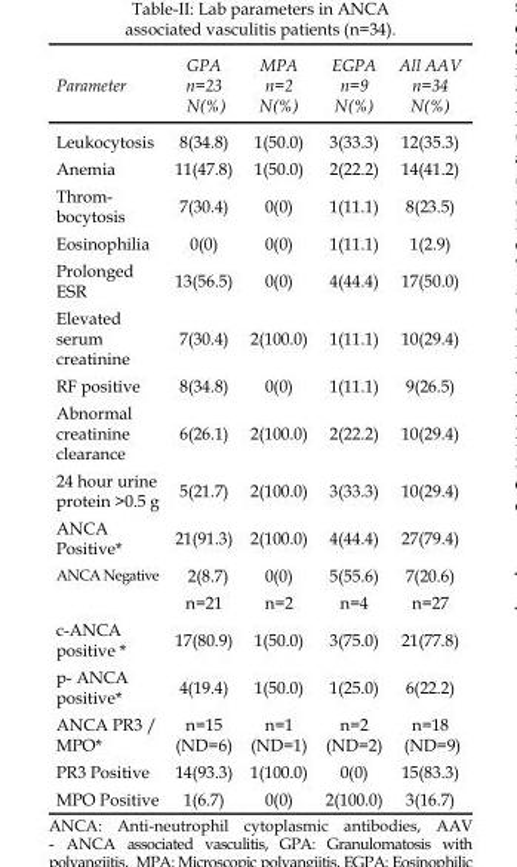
<table><thead><tr><td>Parameter</td><td>GPA n=23 N(%)</td><td>MPA n=2 N(%)</td><td>EGPA n=9 N(%)</td><td>All AAV n=34 N(%)</td></tr></thead><tbody><tr><td>Leukocytosis</td><td>8(34.8)</td><td>1(50.0)</td><td>3(33.3)</td><td>12(35.3)</td></tr><tr><td>Anemia</td><td>11(47.8)</td><td>1(50.0)</td><td>2(22.2)</td><td>14(41.2)</td></tr><tr><td>Throm- bocytosis</td><td>7(30.4)</td><td>0(0)</td><td>1(11.1)</td><td>8(23.5)</td></tr><tr><td>Eosinophilia</td><td>0(0)</td><td>0(0)</td><td>1(11.1)</td><td>1(2.9)</td></tr><tr><td>Prolonged ESR</td><td>13(56.5)</td><td>0(0)</td><td>4(44.4)</td><td>17(50.0)</td></tr><tr><td>Elevated serum creatinine</td><td>7(30.4)</td><td>2(100.0)</td><td>1(11.1)</td><td>10(29.4)</td></tr><tr><td>RF positive</td><td>8(34.8)</td><td>0(0)</td><td>1(11.1)</td><td>9(26.5)</td></tr><tr><td>Abnormal creatinine clearance</td><td>6(26.1)</td><td>2(100.0)</td><td>2(22.2)</td><td>10(29.4)</td></tr><tr><td>24 hour urine protein &gt;0.5 g</td><td>5(21.7)</td><td>2(100.0)</td><td>3(33.3)</td><td>10(29.4)</td></tr><tr><td>ANCA Positive*</td><td>21(91.3)</td><td>2(100.0)</td><td>4(44.4)</td><td>27(79.4)</td></tr><tr><td>ANCA Negative</td><td>2(8.7) n=21</td><td>0(0) n=2</td><td>5(55.6) n=4</td><td>7(20.6) n=27</td></tr><tr><td>c-ANCA positive *</td><td>17(80.9)</td><td>1(50.0)</td><td>3(75.0)</td><td>21(77.8)</td></tr><tr><td>p- ANCA positive*</td><td>4(19.4)</td><td>1(50.0)</td><td>1(25.0)</td><td>6(22.2)</td></tr><tr><td>ANCA PR3 / MPO*</td><td>n=15 (ND=6)</td><td>n=1 (ND=1)</td><td>n=2 (ND=2)</td><td>n=18 (ND=9)</td></tr><tr><td>PR3 Positive</td><td>14(93.3)</td><td>1(100.0)</td><td>0(0)</td><td>15(83.3)</td></tr><tr><td>MPO Positive</td><td>1(6.7)</td><td>0(0)</td><td>2(100.0)</td><td>3(16.7)</td></tr></tbody></table>